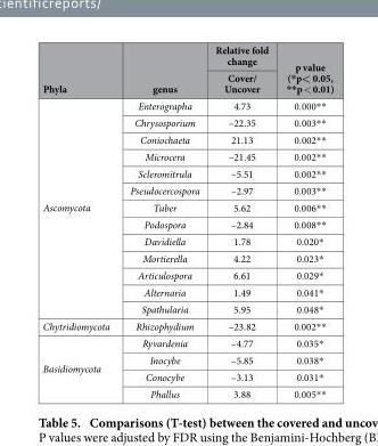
<table><thead><tr><td rowspan="2">Phyla</td><td rowspan="2">genus</td><td rowspan="2">Relative fold change Cover/ Uncover</td><td rowspan="2">p value (*p&lt; 0.05, **p &lt; 0.01)</td></tr><tr></tr></thead><tbody><tr><td rowspan="13">Ascomycota</td><td>Enterographa</td><td>4.73</td><td>0.000* *</td></tr><tr><td>Chrysosporium</td><td>–22.35</td><td>0.003* *</td></tr><tr><td>Coniochaeta</td><td>21.13</td><td>0.002* *</td></tr><tr><td>Microcera</td><td>–21.45</td><td>0.002* *</td></tr><tr><td>Scleromitrula</td><td>–5.51</td><td>0.002* *</td></tr><tr><td>Pseudocercospora</td><td>–2.97</td><td>0.003* *</td></tr><tr><td>Tuber</td><td>5.62</td><td>0.006* *</td></tr><tr><td>Podospora</td><td>–2.84</td><td>0.008* *</td></tr><tr><td>Davidiella</td><td>1.78</td><td>0.020*</td></tr><tr><td>Mortierella</td><td>4.22</td><td>0.023*</td></tr><tr><td>Articulospora</td><td>6.61</td><td>0.029*</td></tr><tr><td>Alternaria</td><td>1.49</td><td>0.041*</td></tr><tr><td>Spathularia</td><td>5.95</td><td>0.048*</td></tr><tr><td>Chytridiomycota</td><td>Rhizophydium</td><td>–23.82</td><td>0.002* *</td></tr><tr><td rowspan="4">Basidiomycota</td><td>Ryvardenia</td><td>–4.77</td><td>0.035*</td></tr><tr><td>Inocybe</td><td>–5.85</td><td>0.038*</td></tr><tr><td>Conocybe</td><td>–3.13</td><td>0.031*</td></tr><tr><td>Phallus</td><td>3.88</td><td>0.005* *</td></tr></tbody></table>